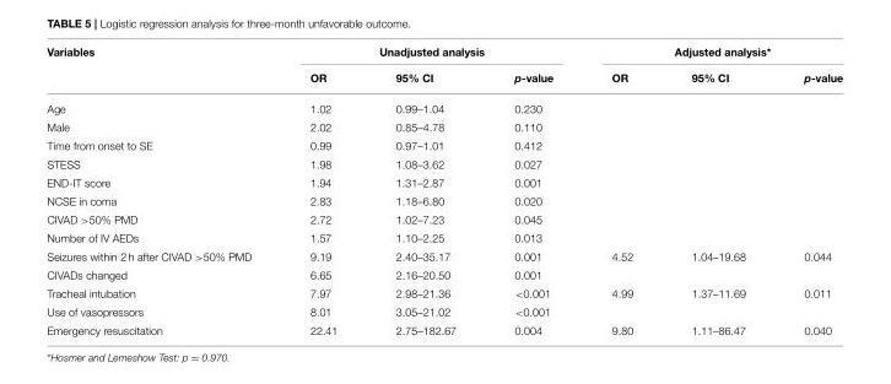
<table><thead><tr><td rowspan="2">Variables</td><td colspan="3">Unadjusted analysis</td><td colspan="3">Adjusted analysis*</td></tr><tr><td>OR</td><td>95% CI</td><td>p-value</td><td>OR</td><td>95% CI</td><td>p-value</td></tr></thead><tbody><tr><td>Age</td><td>1.02</td><td>0.99–1.04</td><td>0.230</td><td></td><td></td><td></td></tr><tr><td>Male</td><td>2.02</td><td>0.85–4.78</td><td>0.110</td><td></td><td></td><td></td></tr><tr><td>Time from onset to SE</td><td>0.99</td><td>0.97–1.01</td><td>0.412</td><td></td><td></td><td></td></tr><tr><td>STESS</td><td>1.98</td><td>1.08–3.62</td><td>0.027</td><td></td><td></td><td></td></tr><tr><td>END-IT score</td><td>1.94</td><td>1.31–2.87</td><td>0.001</td><td></td><td></td><td></td></tr><tr><td>NCSE in coma</td><td>2.83</td><td>1.18–6.80</td><td>0.020</td><td></td><td></td><td></td></tr><tr><td>CIVAD &gt;50% PMD</td><td>2.72</td><td>1.02–7.23</td><td>0.045</td><td></td><td></td><td></td></tr><tr><td>Number of IV AEDs</td><td>1.57</td><td>1.10–2.25</td><td>0.013</td><td></td><td></td><td></td></tr><tr><td>Seizures within 2 h after CIVAD &gt;50% PMD</td><td>9.19</td><td>2.40–35.17</td><td>0.001</td><td>4.52</td><td>1.04–19.68</td><td>0.044</td></tr><tr><td>CIVADs changed</td><td>6.65</td><td>2.16–20.50</td><td>0.001</td><td></td><td></td><td></td></tr><tr><td>Tracheal intubation</td><td>7.97</td><td>2.98–21.36</td><td>&lt;0.001</td><td>4.99</td><td>1.37–11.69</td><td>0.011</td></tr><tr><td>Use of vasopressors</td><td>8.01</td><td>3.05–21.02</td><td>&lt;0.001</td><td></td><td></td><td></td></tr><tr><td>Emergency resuscitation</td><td>22.41</td><td>2.75–182.67</td><td>0.004</td><td>9.80</td><td>1.11–86.47</td><td>0.040</td></tr></tbody></table>